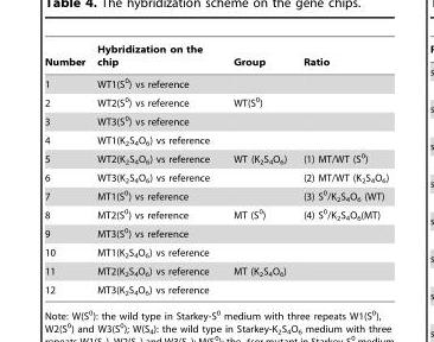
<table><thead><tr><td>Number</td><td>Hybridization on the chip</td><td>Group</td><td>Ratio</td></tr></thead><tbody><tr><td>1</td><td>WT1(S<sup>0</sup>) vs reference</td><td></td><td></td></tr><tr><td>2</td><td>WT2(S<sup>0</sup>) vs reference</td><td>WT(S<sup>0</sup>)</td><td></td></tr><tr><td>3</td><td>WT3(S<sup>0</sup>) vs reference</td><td></td><td></td></tr><tr><td>4</td><td>WT1(K<sub>2</sub>S<sub>4</sub>O<sub>6</sub>) vs reference</td><td></td><td></td></tr><tr><td>5</td><td>WT2(K<sub>2</sub>S<sub>4</sub>O<sub>6</sub>) vs reference</td><td>WT (K<sub>2</sub>S<sub>4</sub>O<sub>6</sub>)</td><td>(1) MT/WT (S<sup>0</sup>)</td></tr><tr><td>6</td><td>WT3(K<sub>2</sub>S<sub>4</sub>O<sub>6</sub>) vs reference</td><td></td><td>(2) MT/WT (K<sub>2</sub>S<sub>4</sub>O<sub>6</sub>)</td></tr><tr><td>7</td><td>MT1(S<sup>0</sup>) vs reference</td><td></td><td>(3) S<sup>0</sup>/K<sub>2</sub>S<sub>4</sub>O<sub>6</sub> (WT)</td></tr><tr><td>8</td><td>MT2(S<sup>0</sup>) vs reference</td><td>MT (S<sup>0</sup>)</td><td>(4) S<sup>0</sup>/K<sub>2</sub>S<sub>4</sub>O<sub>6</sub>(MT)</td></tr><tr><td>9</td><td>MT3(S<sup>0</sup>) vs reference</td><td></td><td></td></tr><tr><td>10</td><td>MT1(K<sub>2</sub>S<sub>4</sub>O<sub>6</sub>) vs reference</td><td></td><td></td></tr><tr><td>11</td><td>MT2(K<sub>2</sub>S<sub>4</sub>O<sub>6</sub>) vs reference</td><td>MT (K<sub>2</sub>S<sub>4</sub>O<sub>6</sub>)</td><td></td></tr><tr><td>12</td><td>MT3(K<sub>2</sub>S<sub>4</sub>O<sub>6</sub>) vs reference</td><td></td><td></td></tr></tbody></table>